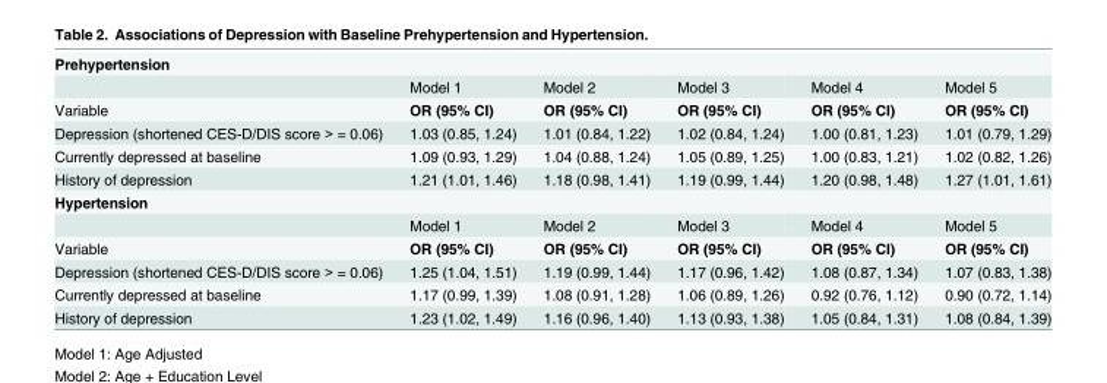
<table><tbody><tr><td colspan="6">Prehypertension</td></tr><tr><td></td><td>Model 1</td><td>Model 2</td><td>Model 3</td><td>Model 4</td><td>Model 5</td></tr><tr><td>Variable</td><td>OR (95% CI)</td><td>OR (95% CI)</td><td>OR (95% CI)</td><td>OR (95% CI)</td><td>OR (95% CI)</td></tr><tr><td>Depression (shortened CES-D/DIS score &gt; = 0.06)</td><td>1.03 (0.85, 1.24)</td><td>1.01 (0.84, 1.22)</td><td>1.02 (0.84, 1.24)</td><td>1.00 (0.81, 1.23)</td><td>1.01 (0.79, 1.29)</td></tr><tr><td>Currently depressed at baseline</td><td>1.09 (0.93, 1.29)</td><td>1.04 (0.88, 1.24)</td><td>1.05 (0.89, 1.25)</td><td>1.00 (0.83, 1.21)</td><td>1.02 (0.82, 1.26)</td></tr><tr><td>History of depression</td><td>1.21 (1.01, 1.46)</td><td>1.18 (0.98, 1.41)</td><td>1.19 (0.99, 1.44)</td><td>1.20 (0.98, 1.48)</td><td>1.27 (1.01, 1.61)</td></tr><tr><td colspan="6">Hypertension</td></tr><tr><td></td><td>Model 1</td><td>Model 2</td><td>Model 3</td><td>Model 4</td><td>Model 5</td></tr><tr><td>Variable</td><td>OR (95% CI)</td><td>OR (95% CI)</td><td>OR (95% CI)</td><td>OR (95% CI)</td><td>OR (95% CI)</td></tr><tr><td>Depression (shortened CES-D/DIS score &gt; = 0.06)</td><td>1.25 (1.04, 1.51)</td><td>1.19 (0.99, 1.44)</td><td>1.17 (0.96, 1.42)</td><td>1.08 (0.87, 1.34)</td><td>1.07 (0.83, 1.38)</td></tr><tr><td>Currently depressed at baseline</td><td>1.17 (0.99, 1.39)</td><td>1.08 (0.91, 1.28)</td><td>1.06 (0.89, 1.26)</td><td>0.92 (0.76, 1.12)</td><td>0.90 (0.72, 1.14)</td></tr><tr><td>History of depression</td><td>1.23 (1.02, 1.49)</td><td>1.16 (0.96, 1.40)</td><td>1.13 (0.93, 1.38)</td><td>1.05 (0.84, 1.31)</td><td>1.08 (0.84, 1.39)</td></tr></tbody></table>